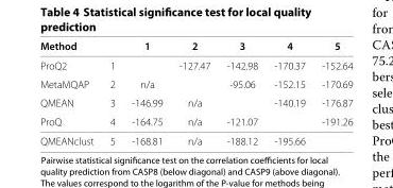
<table><thead><tr><td>Method</td><td></td><td>1</td><td>2</td><td>3</td><td>4</td><td>5</td></tr></thead><tbody><tr><td>ProQ2</td><td>1</td><td></td><td>-127.47</td><td>-142.98</td><td>-170.37</td><td>-152.64</td></tr><tr><td>MetaMQAP</td><td>2</td><td>n/a</td><td></td><td>-95.06</td><td>-152.15</td><td>-170.69</td></tr><tr><td>QMEAN</td><td>3</td><td>-146.99</td><td>n/a</td><td></td><td>-140.19</td><td>-176.87</td></tr><tr><td>ProQ</td><td>4</td><td>-164.75</td><td>n/a</td><td>-121.07</td><td></td><td>-191.26</td></tr><tr><td>QMEANclust</td><td>5</td><td>-168.81</td><td>n/a</td><td>-188.12</td><td>-195.66</td><td></td></tr></tbody></table>